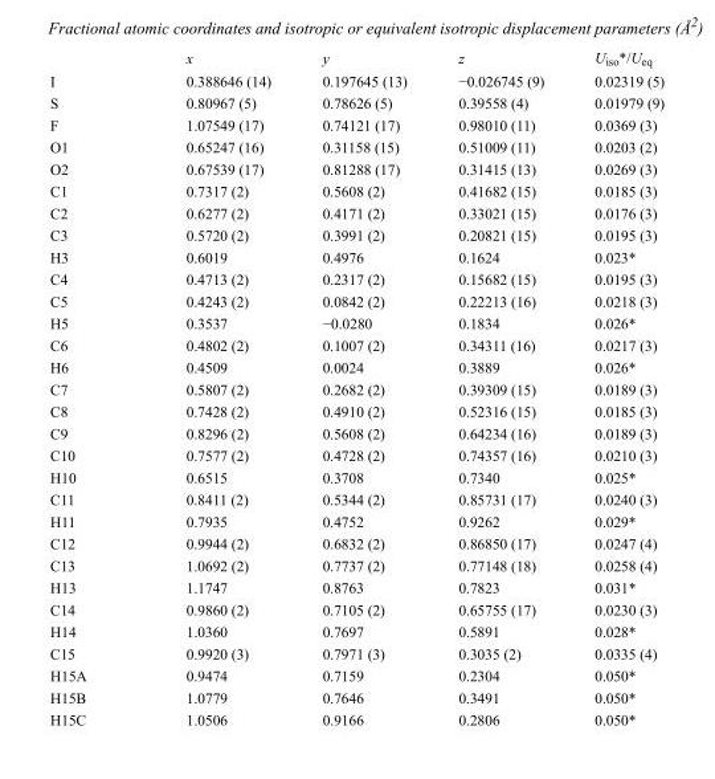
<table><thead><tr><td></td><td>x</td><td>y</td><td>z</td><td>U<sub>iso</sub>*/U<sub>eq</sub></td></tr></thead><tbody><tr><td>I</td><td>0.388646 (14)</td><td>0.197645 (13)</td><td>−0.026745 (9)</td><td>0.02319 (5)</td></tr><tr><td>S</td><td>0.80967 (5)</td><td>0.78626 (5)</td><td>0.39558 (4)</td><td>0.01979 (9)</td></tr><tr><td>F</td><td>1.07549 (17)</td><td>0.74121 (17)</td><td>0.98010 (11)</td><td>0.0369 (3)</td></tr><tr><td>O1</td><td>0.65247 (16)</td><td>0.31158 (15)</td><td>0.51009 (11)</td><td>0.0203 (2)</td></tr><tr><td>O2</td><td>0.67539 (17)</td><td>0.81288 (17)</td><td>0.31415 (13)</td><td>0.0269 (3)</td></tr><tr><td>C1</td><td>0.7317 (2)</td><td>0.5608 (2)</td><td>0.41682 (15)</td><td>0.0185 (3)</td></tr><tr><td>C2</td><td>0.6277 (2)</td><td>0.4171 (2)</td><td>0.33021 (15)</td><td>0.0176 (3)</td></tr><tr><td>C3</td><td>0.5720 (2)</td><td>0.3991 (2)</td><td>0.20821 (15)</td><td>0.0195 (3)</td></tr><tr><td>H3</td><td>0.6019</td><td>0.4976</td><td>0.1624</td><td>0.023*</td></tr><tr><td>C4</td><td>0.4713 (2)</td><td>0.2317 (2)</td><td>0.15682 (15)</td><td>0.0195 (3)</td></tr><tr><td>C5</td><td>0.4243 (2)</td><td>0.0842 (2)</td><td>0.22213 (16)</td><td>0.0218 (3)</td></tr><tr><td>H5</td><td>0.3537</td><td>−0.0280</td><td>0.1834</td><td>0.026*</td></tr><tr><td>C6</td><td>0.4802 (2)</td><td>0.1007 (2)</td><td>0.34311 (16)</td><td>0.0217 (3)</td></tr><tr><td>H6</td><td>0.4509</td><td>0.0024</td><td>0.3889</td><td>0.026*</td></tr><tr><td>C7</td><td>0.5807 (2)</td><td>0.2682 (2)</td><td>0.39309 (15)</td><td>0.0189 (3)</td></tr><tr><td>C8</td><td>0.7428 (2)</td><td>0.4910 (2)</td><td>0.52316 (15)</td><td>0.0185 (3)</td></tr><tr><td>C9</td><td>0.8296 (2)</td><td>0.5608 (2)</td><td>0.64234 (16)</td><td>0.0189 (3)</td></tr><tr><td>C10</td><td>0.7577 (2)</td><td>0.4728 (2)</td><td>0.74357 (16)</td><td>0.0210 (3)</td></tr><tr><td>H10</td><td>0.6515</td><td>0.3708</td><td>0.7340</td><td>0.025*</td></tr><tr><td>C11</td><td>0.8411 (2)</td><td>0.5344 (2)</td><td>0.85731 (17)</td><td>0.0240 (3)</td></tr><tr><td>H11</td><td>0.7935</td><td>0.4752</td><td>0.9262</td><td>0.029*</td></tr><tr><td>C12</td><td>0.9944 (2)</td><td>0.6832 (2)</td><td>0.86850 (17)</td><td>0.0247 (4)</td></tr><tr><td>C13</td><td>1.0692 (2)</td><td>0.7737 (2)</td><td>0.77148 (18)</td><td>0.0258 (4)</td></tr><tr><td>H13</td><td>1.1747</td><td>0.8763</td><td>0.7823</td><td>0.031*</td></tr><tr><td>C14</td><td>0.9860 (2)</td><td>0.7105 (2)</td><td>0.65755 (17)</td><td>0.0230 (3)</td></tr><tr><td>H14</td><td>1.0360</td><td>0.7697</td><td>0.5891</td><td>0.028*</td></tr><tr><td>C15</td><td>0.9920 (3)</td><td>0.7971 (3)</td><td>0.3035 (2)</td><td>0.0335 (4)</td></tr><tr><td>H15A</td><td>0.9474</td><td>0.7159</td><td>0.2304</td><td>0.050*</td></tr><tr><td>H15B</td><td>1.0779</td><td>0.7646</td><td>0.3491</td><td>0.050*</td></tr><tr><td>H15C</td><td>1.0506</td><td>0.9166</td><td>0.2806</td><td>0.050*</td></tr></tbody></table>